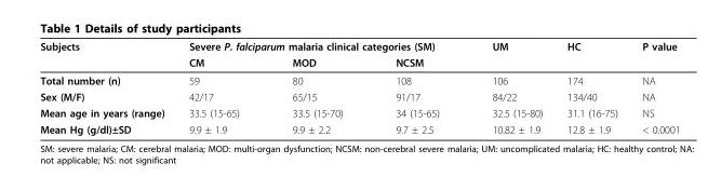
<table><thead><tr><td rowspan="2">Subjects</td><td colspan="3">Severe P. falciparum malaria clinical categories (SM)</td><td rowspan="2">UM</td><td rowspan="2">HC</td><td rowspan="2">P value</td></tr><tr><td>CM</td><td>MOD</td><td>NCSM</td></tr></thead><tbody><tr><td>Total number (n)</td><td>59</td><td>80</td><td>108</td><td>106</td><td>174</td><td>NA</td></tr><tr><td>Sex (M/F)</td><td>42/17</td><td>65/15</td><td>91/17</td><td>84/22</td><td>134/40</td><td>NA</td></tr><tr><td>Mean age in years (range)</td><td>33.5 (15-65)</td><td>33.5 (15-70)</td><td>34 (15-65)</td><td>32.5 (15-80)</td><td>31.1 (16-75)</td><td>NS</td></tr><tr><td>Mean Hg (g/dl)±SD</td><td>9.9 ± 1.9</td><td>9.9 ± 2.2</td><td>9.7 ± 2.5</td><td>10.82 ± 1.9</td><td>12.8 ± 1.9</td><td>&lt; 0.0001</td></tr></tbody></table>